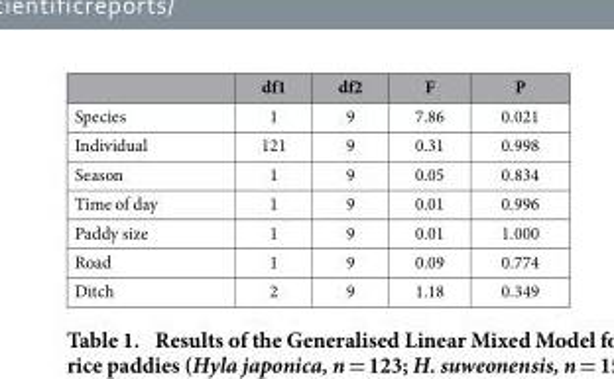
<table><thead><tr><td></td><td>df1</td><td>df2</td><td>F</td><td>P</td></tr></thead><tbody><tr><td>Species</td><td>1</td><td>9</td><td>7.86</td><td>0.021</td></tr><tr><td>Individual</td><td>121</td><td>9</td><td>0.31</td><td>0.998</td></tr><tr><td>Season</td><td>1</td><td>9</td><td>0.05</td><td>0.834</td></tr><tr><td>Time of day</td><td>1</td><td>9</td><td>0.01</td><td>0.996</td></tr><tr><td>Paddy size</td><td>1</td><td>9</td><td>0.01</td><td>1.000</td></tr><tr><td>Road</td><td>1</td><td>9</td><td>0.09</td><td>0.774</td></tr><tr><td>Ditch</td><td>2</td><td>9</td><td>1.18</td><td>0.349</td></tr></tbody></table>